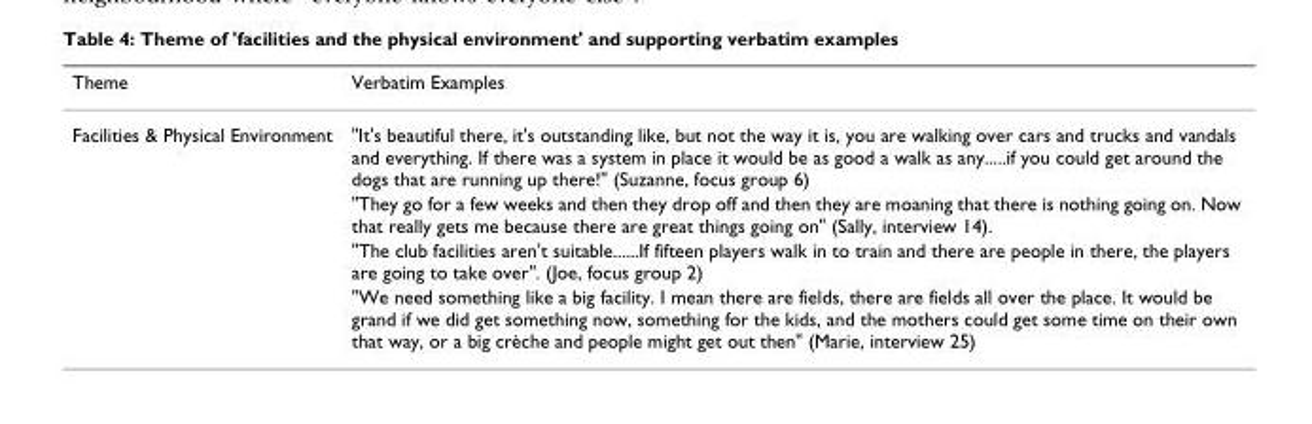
<table><thead><tr><td>Theme</td><td>Verbatim Examples</td></tr></thead><tbody><tr><td rowspan="4">Facilities &amp; Physical Environment</td><td>&quot;It&#x27;s beautiful there, it&#x27;s outstanding like, but not the way it is, you are walking over cars and trucks and vandals and everything. If there was a system in place it would be as good a walk as any.....if you could get around the dogs that are running up there!&quot; (Suzanne, focus group 6)</td></tr><tr><td>&quot;They go for a few weeks and then they drop off and then they are moaning that there is nothing going on. Now that really gets me because there are great things going on&quot; (Sally, interview 14).</td></tr><tr><td>&quot;The club facilities aren&#x27;t suitable......If fifteen players walk in to train and there are people in there, the players are going to take over&quot;. (Joe, focus group 2)</td></tr><tr><td>&quot;We need something like a big facility. I mean there are fields, there are fields all over the place. It would be grand if we did get something now, something for the kids, and the mothers could get some time on their own that way, or a big crèche and people might get out then&quot; (Marie, interview 25)</td></tr></tbody></table>